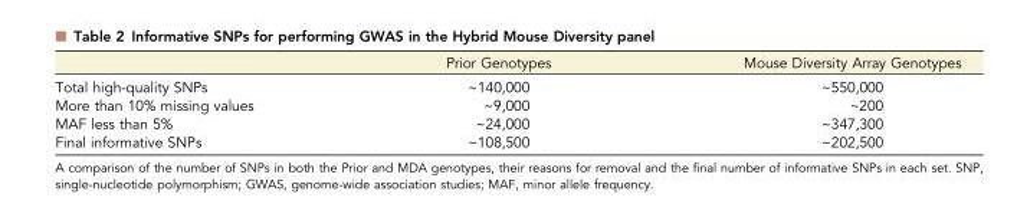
<table><thead><tr><td></td><td>Prior Genotypes</td><td>Mouse Diversity Array Genotypes</td></tr></thead><tbody><tr><td>Total high-quality SNPs</td><td>~140,000</td><td>~550,000</td></tr><tr><td>More than 10% missing values</td><td>~9,000</td><td>~200</td></tr><tr><td>MAF less than 5%</td><td>~24,000</td><td>~347,300</td></tr><tr><td>Final informative SNPs</td><td>~108,500</td><td>~202,500</td></tr></tbody></table>